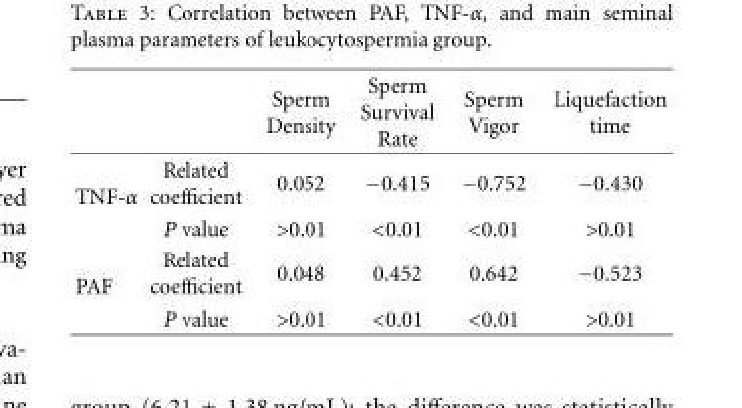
<table><thead><tr><td></td><td></td><td>Sperm Density</td><td>Sperm Survival Rate</td><td>Sperm Vigor</td><td>Liquefaction time</td></tr></thead><tbody><tr><td rowspan="2">TNF-α</td><td>Related coefficient</td><td>0.052</td><td>−0.415</td><td>−0.752</td><td>−0.430</td></tr><tr><td>P value</td><td>&gt;0.01</td><td>&lt;0.01</td><td>&lt;0.01</td><td>&gt;0.01</td></tr><tr><td rowspan="2">PAF</td><td>Related coefficient</td><td>0.048</td><td>0.452</td><td>0.642</td><td>−0.523</td></tr><tr><td>P value</td><td>&gt;0.01</td><td>&lt;0.01</td><td>&lt;0.01</td><td>&gt;0.01</td></tr></tbody></table>